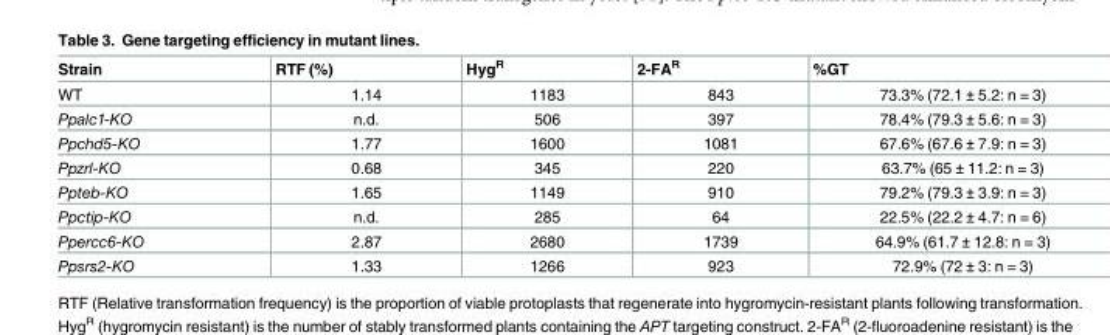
<table><thead><tr><td>Strain</td><td>RTF (%)</td><td>Hyg<sup>R</sup></td><td>2-FA<sup>R</sup></td><td>%GT</td></tr></thead><tbody><tr><td>WT</td><td>1.14</td><td>1183</td><td>843</td><td>73.3% (72.1 ± 5.2: n = 3)</td></tr><tr><td>Ppalc1-KO</td><td>n.d.</td><td>506</td><td>397</td><td>78.4% (79.3 ± 5.6: n = 3)</td></tr><tr><td>Ppchd5-KO</td><td>1.77</td><td>1600</td><td>1081</td><td>67.6% (67.6 ± 7.9: n = 3)</td></tr><tr><td>Ppzrl-KO</td><td>0.68</td><td>345</td><td>220</td><td>63.7% (65 ± 11.2: n = 3)</td></tr><tr><td>Ppteb-KO</td><td>1.65</td><td>1149</td><td>910</td><td>79.2% (79.3 ± 3.9: n = 3)</td></tr><tr><td>Ppctip-KO</td><td>n.d.</td><td>285</td><td>64</td><td>22.5% (22.2 ± 4.7: n = 6)</td></tr><tr><td>Ppercc6-KO</td><td>2.87</td><td>2680</td><td>1739</td><td>64.9% (61.7 ± 12.8: n = 3)</td></tr><tr><td>Ppsrs2-KO</td><td>1.33</td><td>1266</td><td>923</td><td>72.9% (72 ± 3: n = 3)</td></tr></tbody></table>